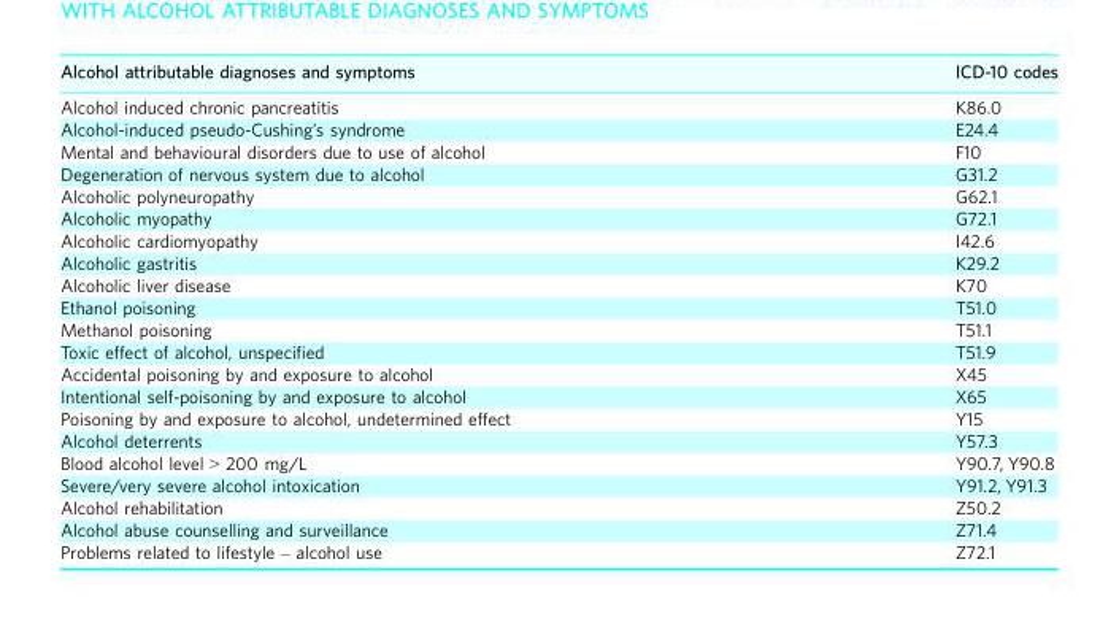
<table><thead><tr><td>Alcohol attributable diagnoses and symptoms</td><td>ICD-10 codes</td></tr></thead><tbody><tr><td>Alcohol induced chronic pancreatitis</td><td>K86.0</td></tr><tr><td>Alcohol-induced pseudo-Cushing’s syndrome</td><td>E24.4</td></tr><tr><td>Mental and behavioural disorders due to use of alcohol</td><td>F10</td></tr><tr><td>Degeneration of nervous system due to alcohol</td><td>G31.2</td></tr><tr><td>Alcoholic polyneuropathy</td><td>G62.1</td></tr><tr><td>Alcoholic myopathy</td><td>G72.1</td></tr><tr><td>Alcoholic cardiomyopathy</td><td>I42.6</td></tr><tr><td>Alcoholic gastritis</td><td>K29.2</td></tr><tr><td>Alcoholic liver disease</td><td>K70</td></tr><tr><td>Ethanol poisoning</td><td>T51.0</td></tr><tr><td>Methanol poisoning</td><td>T51.1</td></tr><tr><td>Toxic effect of alcohol, unspecified</td><td>T51.9</td></tr><tr><td>Accidental poisoning by and exposure to alcohol</td><td>X45</td></tr><tr><td>Intentional self-poisoning by and exposure to alcohol</td><td>X65</td></tr><tr><td>Poisoning by and exposure to alcohol, undetermined effect</td><td>Y15</td></tr><tr><td>Alcohol deterrents</td><td>Y57.3</td></tr><tr><td>Blood alcohol level &gt; 200 mg/L</td><td>Y90.7, Y90.8</td></tr><tr><td>Severe/very severe alcohol intoxication</td><td>Y91.2, Y91.3</td></tr><tr><td>Alcohol rehabilitation</td><td>Z50.2</td></tr><tr><td>Alcohol abuse counselling and surveillance</td><td>Z71.4</td></tr><tr><td>Problems related to lifestyle – alcohol use</td><td>Z72.1</td></tr></tbody></table>